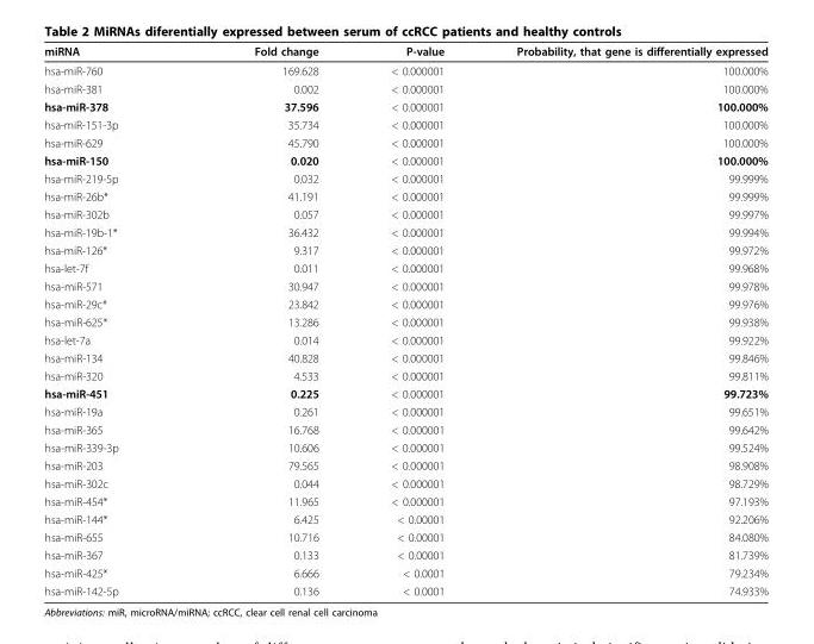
<table><thead><tr><td>miRNA</td><td>Fold change</td><td>P-value</td><td>Probability, that gene is differentially expressed</td></tr></thead><tbody><tr><td>hsa-miR-760</td><td>169.628</td><td>&lt; 0.000001</td><td>100.000%</td></tr><tr><td>hsa-miR-381</td><td>0.002</td><td>&lt; 0.000001</td><td>100.000%</td></tr><tr><td>hsa-miR-378</td><td>37.596</td><td>&lt; 0.000001</td><td>100.000%</td></tr><tr><td>hsa-miR-151-3p</td><td>35.734</td><td>&lt; 0.000001</td><td>100.000%</td></tr><tr><td>hsa-miR-629</td><td>45.790</td><td>&lt; 0.000001</td><td>100.000%</td></tr><tr><td>hsa-miR-150</td><td>0.020</td><td>&lt; 0.000001</td><td>100.000%</td></tr><tr><td>hsa-miR-219-5p</td><td>0.032</td><td>&lt; 0.000001</td><td>99.999%</td></tr><tr><td>hsa-miR-26b*</td><td>41.191</td><td>&lt; 0.000001</td><td>99.999%</td></tr><tr><td>hsa-miR-302b</td><td>0.057</td><td>&lt; 0.000001</td><td>99.997%</td></tr><tr><td>hsa-miR-19b-1*</td><td>36.432</td><td>&lt; 0.000001</td><td>99.994%</td></tr><tr><td>hsa-miR-126*</td><td>9.317</td><td>&lt; 0.000001</td><td>99.972%</td></tr><tr><td>hsa-let-7f</td><td>0.011</td><td>&lt; 0.000001</td><td>99.968%</td></tr><tr><td>hsa-miR-571</td><td>30.947</td><td>&lt; 0.000001</td><td>99.978%</td></tr><tr><td>hsa-miR-29c*</td><td>23.842</td><td>&lt; 0.000001</td><td>99.976%</td></tr><tr><td>hsa-miR-625*</td><td>13.286</td><td>&lt; 0.000001</td><td>99.938%</td></tr><tr><td>hsa-let-7a</td><td>0.014</td><td>&lt; 0.000001</td><td>99.922%</td></tr><tr><td>hsa-miR-134</td><td>40.828</td><td>&lt; 0.000001</td><td>99.846%</td></tr><tr><td>hsa-miR-320</td><td>4.533</td><td>&lt; 0.000001</td><td>99.811%</td></tr><tr><td>hsa-miR-451</td><td>0.225</td><td>&lt; 0.000001</td><td>99.723%</td></tr><tr><td>hsa-miR-19a</td><td>0.261</td><td>&lt; 0.000001</td><td>99.651%</td></tr><tr><td>hsa-miR-365</td><td>16.768</td><td>&lt; 0.000001</td><td>99.642%</td></tr><tr><td>hsa-miR-339-3p</td><td>10.606</td><td>&lt; 0.000001</td><td>99.524%</td></tr><tr><td>hsa-miR-203</td><td>79.565</td><td>&lt; 0.000001</td><td>98.908%</td></tr><tr><td>hsa-miR-302c</td><td>0.044</td><td>&lt; 0.000001</td><td>98.729%</td></tr><tr><td>hsa-miR-454*</td><td>11.965</td><td>&lt; 0.000001</td><td>97.193%</td></tr><tr><td>hsa-miR-144*</td><td>6.425</td><td>&lt; 0.00001</td><td>92.206%</td></tr><tr><td>hsa-miR-655</td><td>10.716</td><td>&lt; 0.00001</td><td>84.080%</td></tr><tr><td>hsa-miR-367</td><td>0.133</td><td>&lt; 0.00001</td><td>81.739%</td></tr><tr><td>hsa-miR-425*</td><td>6.666</td><td>&lt; 0.0001</td><td>79.234%</td></tr><tr><td>hsa-miR-142-5p</td><td>0.136</td><td>&lt; 0.0001</td><td>74.933%</td></tr></tbody></table>